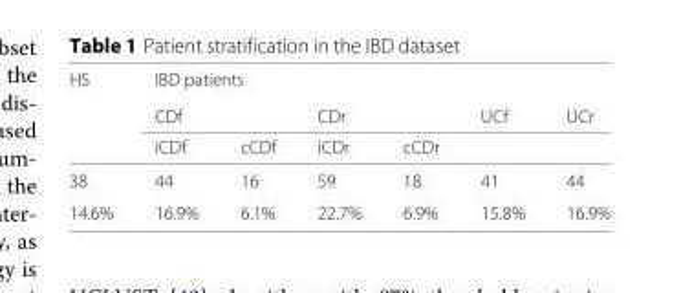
<table><thead><tr><td rowspan="3">HS</td><td colspan="4">IBD patients</td><td rowspan="3">UCf</td><td rowspan="3">UCr</td></tr><tr><td colspan="2">CDf</td><td colspan="2">CDr</td></tr><tr><td>iCDf</td><td>cCDf</td><td>iCDr</td><td>cCDr</td></tr></thead><tbody><tr><td>38</td><td>44</td><td>16</td><td>59</td><td>18</td><td>41</td><td>44</td></tr><tr><td>14.6%</td><td>16.9%</td><td>6.1%</td><td>22.7%</td><td>6.9%</td><td>15.8%</td><td>16.9%</td></tr></tbody></table>